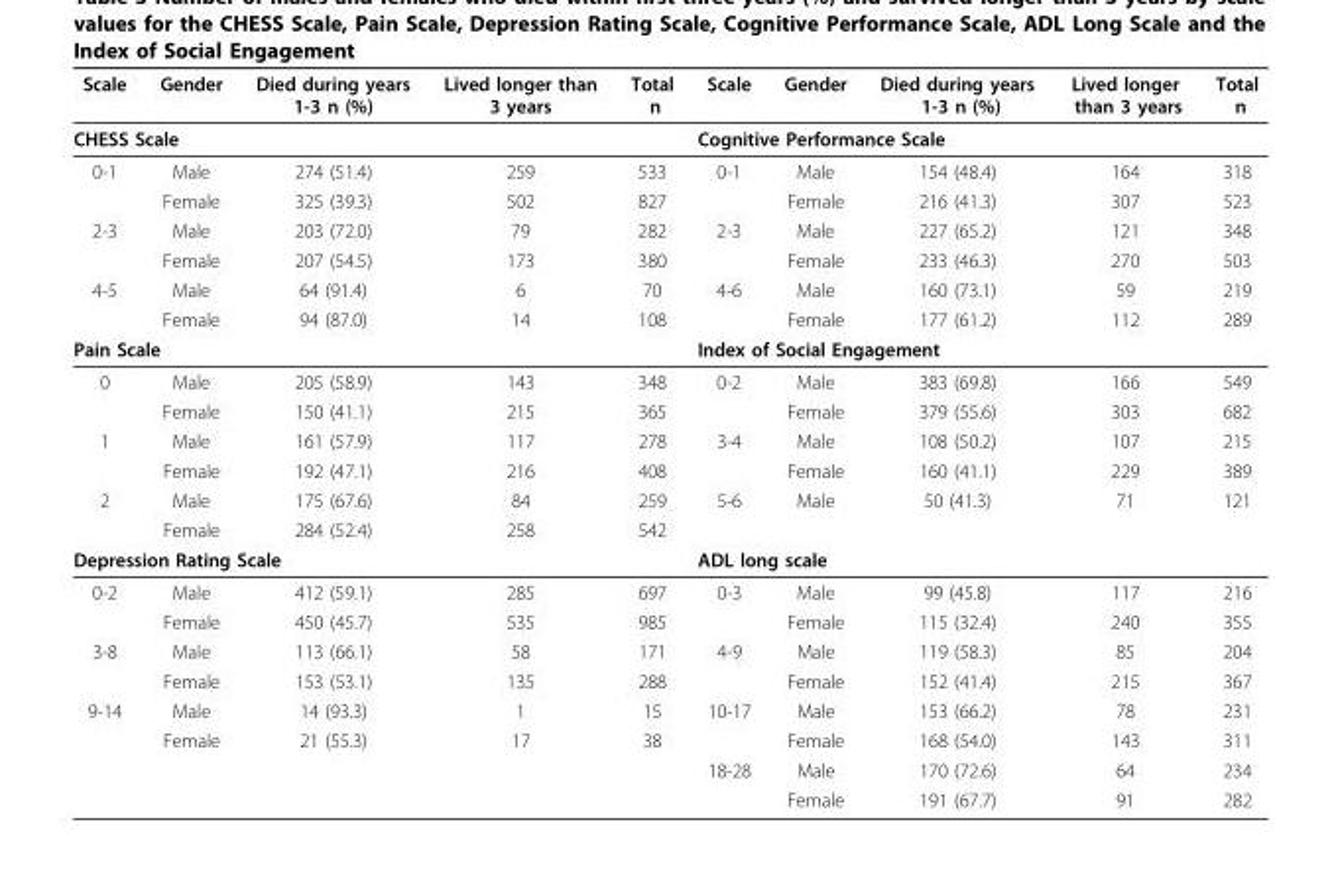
<table><thead><tr><td>Scale</td><td>Gender</td><td>Died during years 1-3 n (%)</td><td>Lived longer than 3 years</td><td>Total n</td><td>Scale</td><td>Gender</td><td>Died during years 1-3 n (%)</td><td>Lived longer than 3 years</td><td>Total n</td></tr></thead><tbody><tr><td colspan="5">CHESS Scale</td><td colspan="5">Cognitive Performance Scale</td></tr><tr><td rowspan="2">0-1</td><td>Male</td><td>274 (51.4)</td><td>259</td><td>533</td><td>0-1</td><td>Male</td><td>154 (48.4)</td><td>164</td><td>318</td></tr><tr><td>Female</td><td>325 (39.3)</td><td>502</td><td>827</td><td></td><td>Female</td><td>216 (41.3)</td><td>307</td><td>523</td></tr><tr><td rowspan="2">2-3</td><td>Male</td><td>203 (72.0)</td><td>79</td><td>282</td><td>2-3</td><td>Male</td><td>227 (65.2)</td><td>121</td><td>348</td></tr><tr><td>Female</td><td>207 (54.5)</td><td>173</td><td>380</td><td></td><td>Female</td><td>233 (46.3)</td><td>270</td><td>503</td></tr><tr><td rowspan="2">4-5</td><td>Male</td><td>64 (91.4)</td><td>6</td><td>70</td><td>4-6</td><td>Male</td><td>160 (73.1)</td><td>59</td><td>219</td></tr><tr><td>Female</td><td>94 (87.0)</td><td>14</td><td>108</td><td></td><td>Female</td><td>177 (61.2)</td><td>112</td><td>289</td></tr><tr><td colspan="5">Pain Scale</td><td colspan="5">Index of Social Engagement</td></tr><tr><td rowspan="2">0</td><td>Male</td><td>205 (58.9)</td><td>143</td><td>348</td><td>0-2</td><td>Male</td><td>383 (69.8)</td><td>166</td><td>549</td></tr><tr><td>Female</td><td>150 (41.1)</td><td>215</td><td>365</td><td></td><td>Female</td><td>379 (55.6)</td><td>303</td><td>682</td></tr><tr><td rowspan="2">1</td><td>Male</td><td>161 (57.9)</td><td>117</td><td>278</td><td>3-4</td><td>Male</td><td>108 (50.2)</td><td>107</td><td>215</td></tr><tr><td>Female</td><td>192 (47.1)</td><td>216</td><td>408</td><td></td><td>Female</td><td>160 (41.1)</td><td>229</td><td>389</td></tr><tr><td rowspan="2">2</td><td>Male</td><td>175 (67.6)</td><td>84</td><td>259</td><td>5-6</td><td>Male</td><td>50 (41.3)</td><td>71</td><td>121</td></tr><tr><td>Female</td><td>284 (52.4)</td><td>258</td><td>542</td><td></td><td></td><td></td><td></td><td></td></tr><tr><td colspan="5">Depression Rating Scale</td><td colspan="5">ADL long scale</td></tr><tr><td rowspan="2">0-2</td><td>Male</td><td>412 (59.1)</td><td>285</td><td>697</td><td>0-3</td><td>Male</td><td>99 (45.8)</td><td>117</td><td>216</td></tr><tr><td>Female</td><td>450 (45.7)</td><td>535</td><td>985</td><td></td><td>Female</td><td>115 (32.4)</td><td>240</td><td>355</td></tr><tr><td rowspan="2">3-8</td><td>Male</td><td>113 (66.1)</td><td>58</td><td>171</td><td>4-9</td><td>Male</td><td>119 (58.3)</td><td>85</td><td>204</td></tr><tr><td>Female</td><td>153 (53.1)</td><td>135</td><td>288</td><td></td><td>Female</td><td>152 (41.4)</td><td>215</td><td>367</td></tr><tr><td rowspan="4">9-14</td><td>Male</td><td>14 (93.3)</td><td>1</td><td>15</td><td>10-17</td><td>Male</td><td>153 (66.2)</td><td>78</td><td>231</td></tr><tr><td>Female</td><td>21 (55.3)</td><td>17</td><td>38</td><td></td><td>Female</td><td>168 (54.0)</td><td>143</td><td>311</td></tr><tr><td></td><td></td><td></td><td></td><td>18-28</td><td>Male</td><td>170 (72.6)</td><td>64</td><td>234</td></tr><tr><td></td><td></td><td></td><td></td><td></td><td>Female</td><td>191 (67.7)</td><td>91</td><td>282</td></tr></tbody></table>